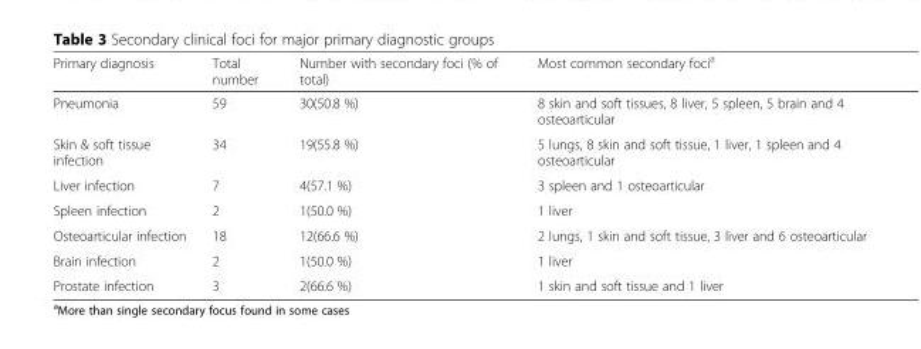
<table><thead><tr><td>Primary diagnosis</td><td>Total number</td><td>Number with secondary foci (% of total)</td><td>Most common secondary foci<sup>a</sup></td></tr></thead><tbody><tr><td>Pneumonia</td><td>59</td><td>30(50.8 %)</td><td>8 skin and soft tissues, 8 liver, 5 spleen, 5 brain and 4 osteoarticular</td></tr><tr><td>Skin &amp; soft tissue infection</td><td>34</td><td>19(55.8 %)</td><td>5 lungs, 8 skin and soft tissue, 1 liver, 1 spleen and 4 osteoarticular</td></tr><tr><td>Liver infection</td><td>7</td><td>4(57.1 %)</td><td>3 spleen and 1 osteoarticular</td></tr><tr><td>Spleen infection</td><td>2</td><td>1(50.0 %)</td><td>1 liver</td></tr><tr><td>Osteoarticular infection</td><td>18</td><td>12(66.6 %)</td><td>2 lungs, 1 skin and soft tissue, 3 liver and 6 osteoarticular</td></tr><tr><td>Brain infection</td><td>2</td><td>1(50.0 %)</td><td>1 liver</td></tr><tr><td>Prostate infection</td><td>3</td><td>2(66.6 %)</td><td>1 skin and soft tissue and 1 liver</td></tr></tbody></table>